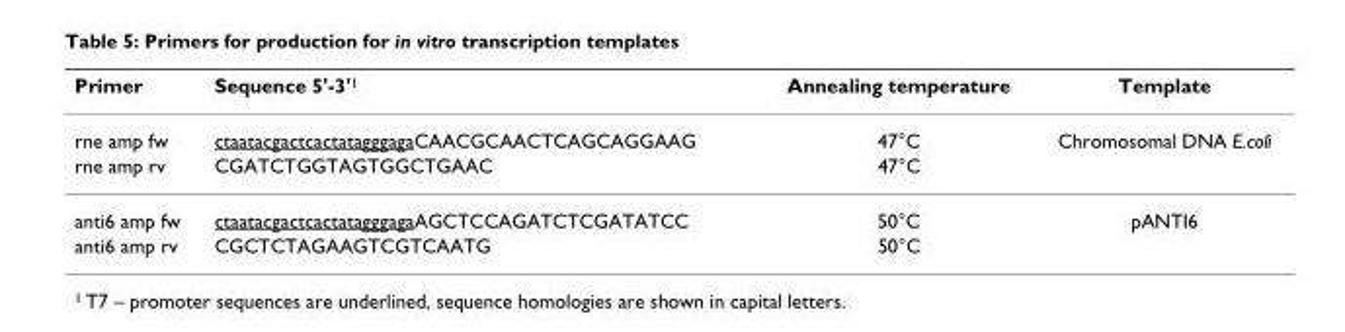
<table><thead><tr><td>Primer</td><td>Sequence 5&#x27;-3&#x27;<sup>1</sup></td><td>Annealing temperature</td><td>Template</td></tr></thead><tbody><tr><td>rne amp fw</td><td>ctaatacgactcactatagggagaCAACGCAACTCAGCAGGAAG</td><td>47°C</td><td>Chromosomal DNA E.coli</td></tr><tr><td>rne amp rv</td><td>CGATCTGGTAGTGGCTGAAC</td><td>47°C</td><td></td></tr><tr><td>anti6 amp fw</td><td>ctaatacgactcactatagggagaAGCTCCAGATCTCGATATCC</td><td>50°C</td><td>pANTI6</td></tr><tr><td>anti6 amp rv</td><td>CGCTCTAGAAGTCGTCAATG</td><td>50°C</td><td></td></tr></tbody></table>